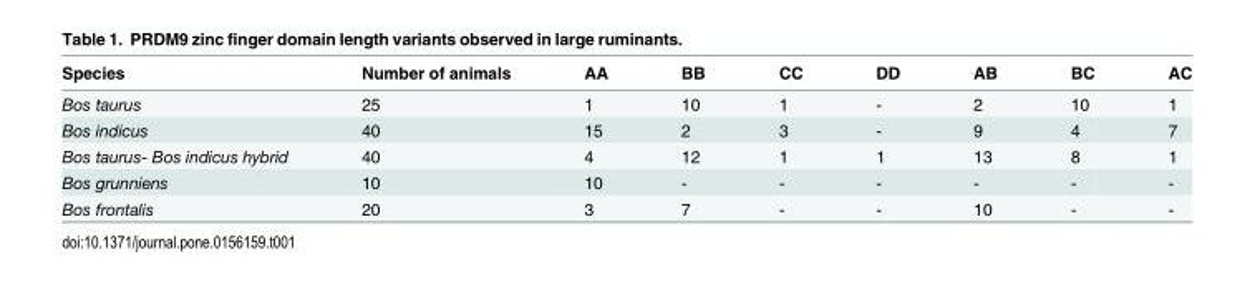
<table><thead><tr><td>Species</td><td>Number of animals</td><td>AA</td><td>BB</td><td>CC</td><td>DD</td><td>AB</td><td>BC</td><td>AC</td></tr></thead><tbody><tr><td>Bos taurus</td><td>25</td><td>1</td><td>10</td><td>1</td><td>-</td><td>2</td><td>10</td><td>1</td></tr><tr><td>Bos indicus</td><td>40</td><td>15</td><td>2</td><td>3</td><td>-</td><td>9</td><td>4</td><td>7</td></tr><tr><td>Bos taurus- Bos indicus hybrid</td><td>40</td><td>4</td><td>12</td><td>1</td><td>1</td><td>13</td><td>8</td><td>1</td></tr><tr><td>Bos grunniens</td><td>10</td><td>10</td><td>-</td><td>-</td><td>-</td><td>-</td><td>-</td><td>-</td></tr><tr><td>Bos frontalis</td><td>20</td><td>3</td><td>7</td><td>-</td><td>-</td><td>10</td><td>-</td><td>-</td></tr></tbody></table>